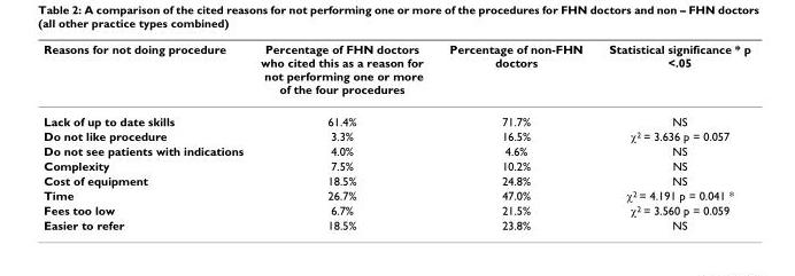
<table><thead><tr><td>Reasons for not doing procedure</td><td>Percentage of FHN doctors who cited this as a reason for not performing one or more of the four procedures</td><td>Percentage of non-FHN doctors</td><td>Statistical significance * p &lt;.05</td></tr></thead><tbody><tr><td>Lack of up to date skills</td><td>61.4%</td><td>71.7%</td><td>NS</td></tr><tr><td>Do not like procedure</td><td>3.3%</td><td>16.5%</td><td>χ<sup>2</sup> = 3.636 p = 0.057</td></tr><tr><td>Do not see patients with indications</td><td>4.0%</td><td>4.6%</td><td>NS</td></tr><tr><td>Complexity</td><td>7.5%</td><td>10.2%</td><td>NS</td></tr><tr><td>Cost of equipment</td><td>18.5%</td><td>24.8%</td><td>NS</td></tr><tr><td>Time</td><td>26.7%</td><td>47.0%</td><td>χ<sup>2</sup> = 4.191 p = 0.041 *</td></tr><tr><td>Fees too low</td><td>6.7%</td><td>21.5%</td><td>χ<sup>2</sup> = 3.560 p = 0.059</td></tr><tr><td>Easier to refer</td><td>18.5%</td><td>23.8%</td><td>NS</td></tr></tbody></table>